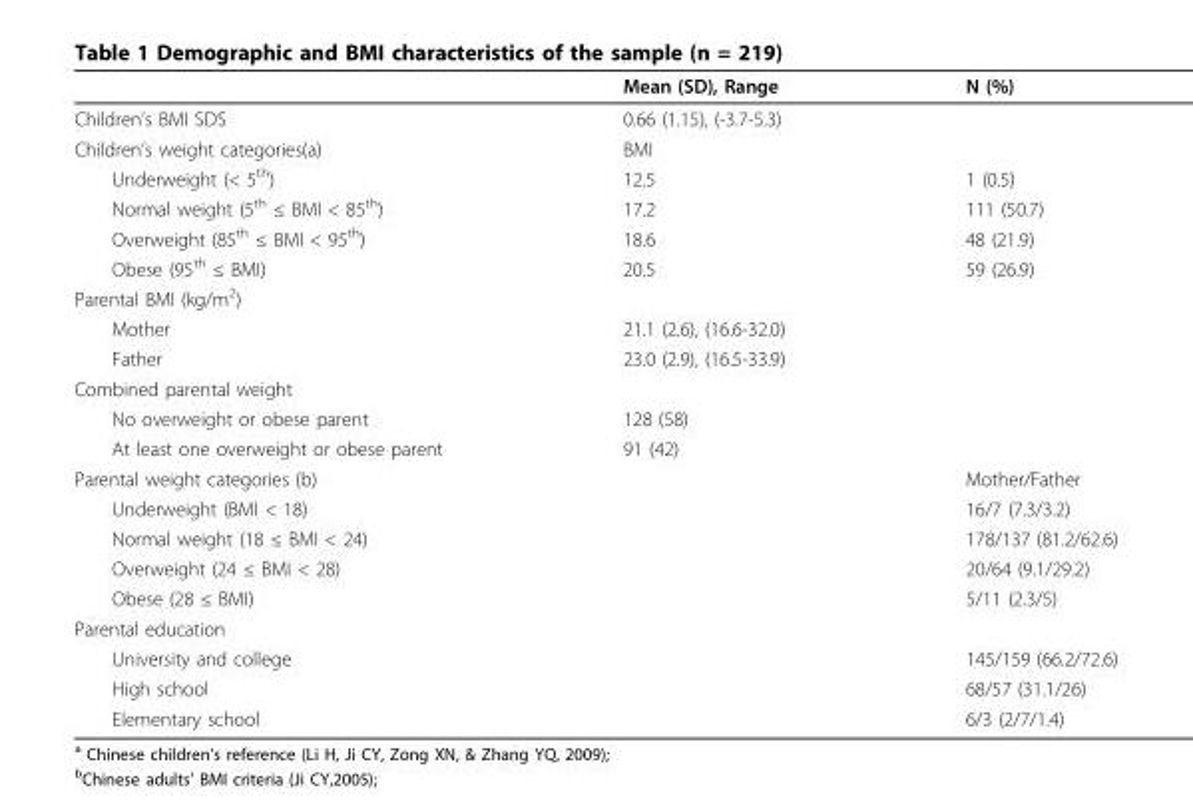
<table><thead><tr><td></td><td>Mean (SD), Range</td><td>N (%)</td></tr></thead><tbody><tr><td>Children’s BMI SDS</td><td>0.66 (1.15), (-3.7-5.3)</td><td></td></tr><tr><td>Children’s weight categories(a)</td><td>BMI</td><td></td></tr><tr><td>Underweight (&lt; 5<sup>th</sup>)</td><td>12.5</td><td>1 (0.5)</td></tr><tr><td>Normal weight (5<sup>th</sup> ≤ BMI &lt; 85<sup>th</sup>)</td><td>17.2</td><td>111 (50.7)</td></tr><tr><td>Overweight (85<sup>th</sup> ≤ BMI &lt; 95<sup>th</sup>)</td><td>18.6</td><td>48 (21.9)</td></tr><tr><td>Obese (95<sup>th</sup> ≤ BMI)</td><td>20.5</td><td>59 (26.9)</td></tr><tr><td colspan="3">Parental BMI (kg/m<sup>2</sup>)</td></tr><tr><td>Mother</td><td>21.1 (2.6), (16.6-32.0)</td><td></td></tr><tr><td>Father</td><td>23.0 (2.9), (16.5-33.9)</td><td></td></tr><tr><td colspan="3">Combined parental weight</td></tr><tr><td>No overweight or obese parent</td><td>128 (58)</td><td></td></tr><tr><td>At least one overweight or obese parent</td><td>91 (42)</td><td></td></tr><tr><td>Parental weight categories (b)</td><td></td><td>Mother/Father</td></tr><tr><td>Underweight (BMI &lt; 18)</td><td></td><td>16/7 (7.3/3.2)</td></tr><tr><td>Normal weight (18 ≤ BMI &lt; 24)</td><td></td><td>178/137 (81.2/62.6)</td></tr><tr><td>Overweight (24 ≤ BMI &lt; 28)</td><td></td><td>20/64 (9.1/29.2)</td></tr><tr><td>Obese (28 ≤ BMI)</td><td></td><td>5/11 (2.3/5)</td></tr><tr><td colspan="3">Parental education</td></tr><tr><td>University and college</td><td></td><td>145/159 (66.2/72.6)</td></tr><tr><td>High school</td><td></td><td>68/57 (31.1/26)</td></tr><tr><td>Elementary school</td><td></td><td>6/3 (2/7/1.4)</td></tr></tbody></table>